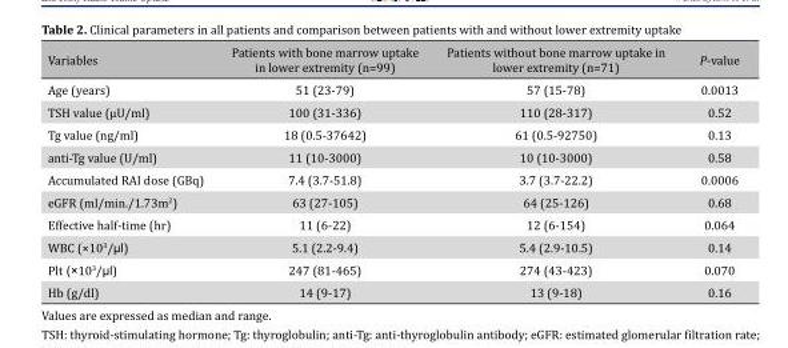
<table><thead><tr><td>Variables</td><td>Patients with bone marrow uptake in lower extremity (n=99)</td><td>Patients without bone marrow uptake in lower extremity (n=71)</td><td>P-value</td></tr></thead><tbody><tr><td>Age (years)</td><td>51 (23-79)</td><td>57 (15-78)</td><td>0.0013</td></tr><tr><td>TSH value (μU/ml)</td><td>100 (31-336)</td><td>110 (28-317)</td><td>0.52</td></tr><tr><td>Tg value (ng/ml)</td><td>18 (0.5-37642)</td><td>61 (0.5-92750)</td><td>0.13</td></tr><tr><td>anti-Tg value (U/ml)</td><td>11 (10-3000)</td><td>10 (10-3000)</td><td>0.58</td></tr><tr><td>Accumulated RAI dose (GBq)</td><td>7.4 (3.7-51.8)</td><td>3.7 (3.7-22.2)</td><td>0.0006</td></tr><tr><td>eGFR (ml/min./1.73m<sup>2</sup>)</td><td>63 (27-105)</td><td>64 (25-126)</td><td>0.68</td></tr><tr><td>Effective half-time (hr)</td><td>11 (6-22)</td><td>12 (6-154)</td><td>0.064</td></tr><tr><td>WBC (×10<sup>3</sup>/μl)</td><td>5.1 (2.2-9.4)</td><td>5.4 (2.9-10.5)</td><td>0.14</td></tr><tr><td>Plt (×10<sup>3</sup>/μl)</td><td>247 (81-465)</td><td>274 (43-423)</td><td>0.070</td></tr><tr><td>Hb (g/dl)</td><td>14 (9-17)</td><td>13 (9-18)</td><td>0.16</td></tr></tbody></table>